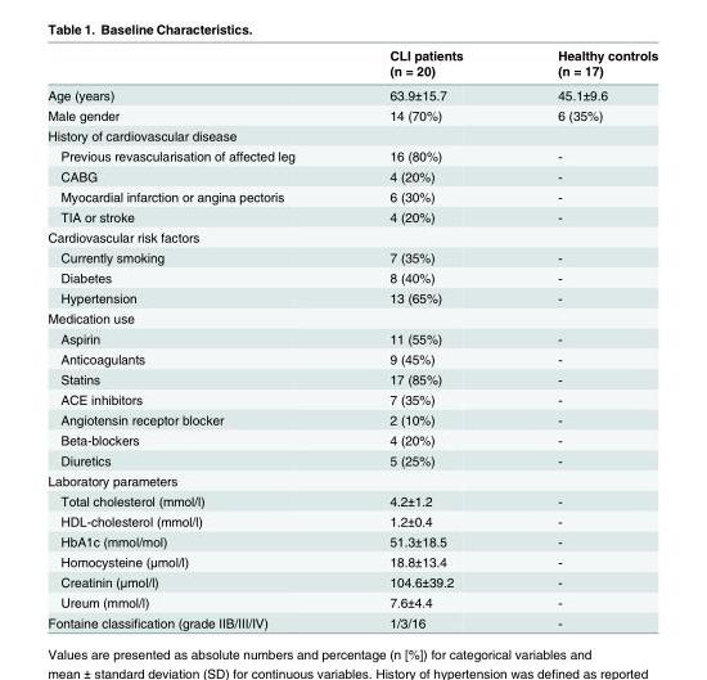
<table><thead><tr><td rowspan="2"></td><td rowspan="2">CLI patients (n = 20)</td><td rowspan="2">Healthy controls (n = 17)</td></tr><tr></tr></thead><tbody><tr><td>Age (years)</td><td>63.9±15.7</td><td>45.1±9.6</td></tr><tr><td>Male gender</td><td>14 (70%)</td><td>6 (35%)</td></tr><tr><td colspan="3">History of cardiovascular disease</td></tr><tr><td>Previous revascularisation of affected leg</td><td>16 (80%)</td><td>-</td></tr><tr><td>CABG</td><td>4 (20%)</td><td>-</td></tr><tr><td>Myocardial infarction or angina pectoris</td><td>6 (30%)</td><td>-</td></tr><tr><td>TIA or stroke</td><td>4 (20%)</td><td>-</td></tr><tr><td colspan="3">Cardiovascular risk factors</td></tr><tr><td>Currently smoking</td><td>7 (35%)</td><td>-</td></tr><tr><td>Diabetes</td><td>8 (40%)</td><td>-</td></tr><tr><td>Hypertension</td><td>13 (65%)</td><td>-</td></tr><tr><td colspan="3">Medication use</td></tr><tr><td>Aspirin</td><td>11 (55%)</td><td>-</td></tr><tr><td>Anticoagulants</td><td>9 (45%)</td><td>-</td></tr><tr><td>Statins</td><td>17 (85%)</td><td>-</td></tr><tr><td>ACE inhibitors</td><td>7 (35%)</td><td>-</td></tr><tr><td>Angiotensin receptor blocker</td><td>2 (10%)</td><td>-</td></tr><tr><td>Beta-blockers</td><td>4 (20%)</td><td>-</td></tr><tr><td>Diuretics</td><td>5 (25%)</td><td>-</td></tr><tr><td colspan="3">Laboratory parameters</td></tr><tr><td>Total cholesterol (mmol/l)</td><td>4.2±1.2</td><td>-</td></tr><tr><td>HDL-cholesterol (mmol/l)</td><td>1.2±0.4</td><td>-</td></tr><tr><td>HbA1c (mmol/mol)</td><td>51.3±18.5</td><td>-</td></tr><tr><td>Homocysteine (μmol/l)</td><td>18.8±13.4</td><td>-</td></tr><tr><td>Creatinin (μmol/l)</td><td>104.6±39.2</td><td>-</td></tr><tr><td>Ureum (mmol/l)</td><td>7.6±4.4</td><td>-</td></tr><tr><td>Fontaine classification (grade IIB/III/IV)</td><td>1/3/16</td><td>-</td></tr></tbody></table>